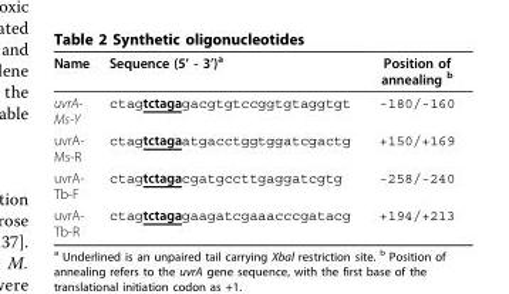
<table><thead><tr><td>Name</td><td>Sequence (5’ - 3’)<sup>a</sup></td><td>Position of annealing <sup>b</sup></td></tr></thead><tbody><tr><td>uvrA- Ms-Y</td><td>ctagtctagagacgtgtccggtgtaggtgt</td><td>-180/-160</td></tr><tr><td>uvrA- Ms-R</td><td>ctagtctagaatgacctggtggatcgactg</td><td>+150/+169</td></tr><tr><td>uvrA- Tb-F</td><td>ctagtctagacgatgccttgaggatcgtg</td><td>-258/-240</td></tr><tr><td>uvrA- Tb-R</td><td>ctagtctagagaagatcgaaacccgatacg</td><td>+194/+213</td></tr></tbody></table>